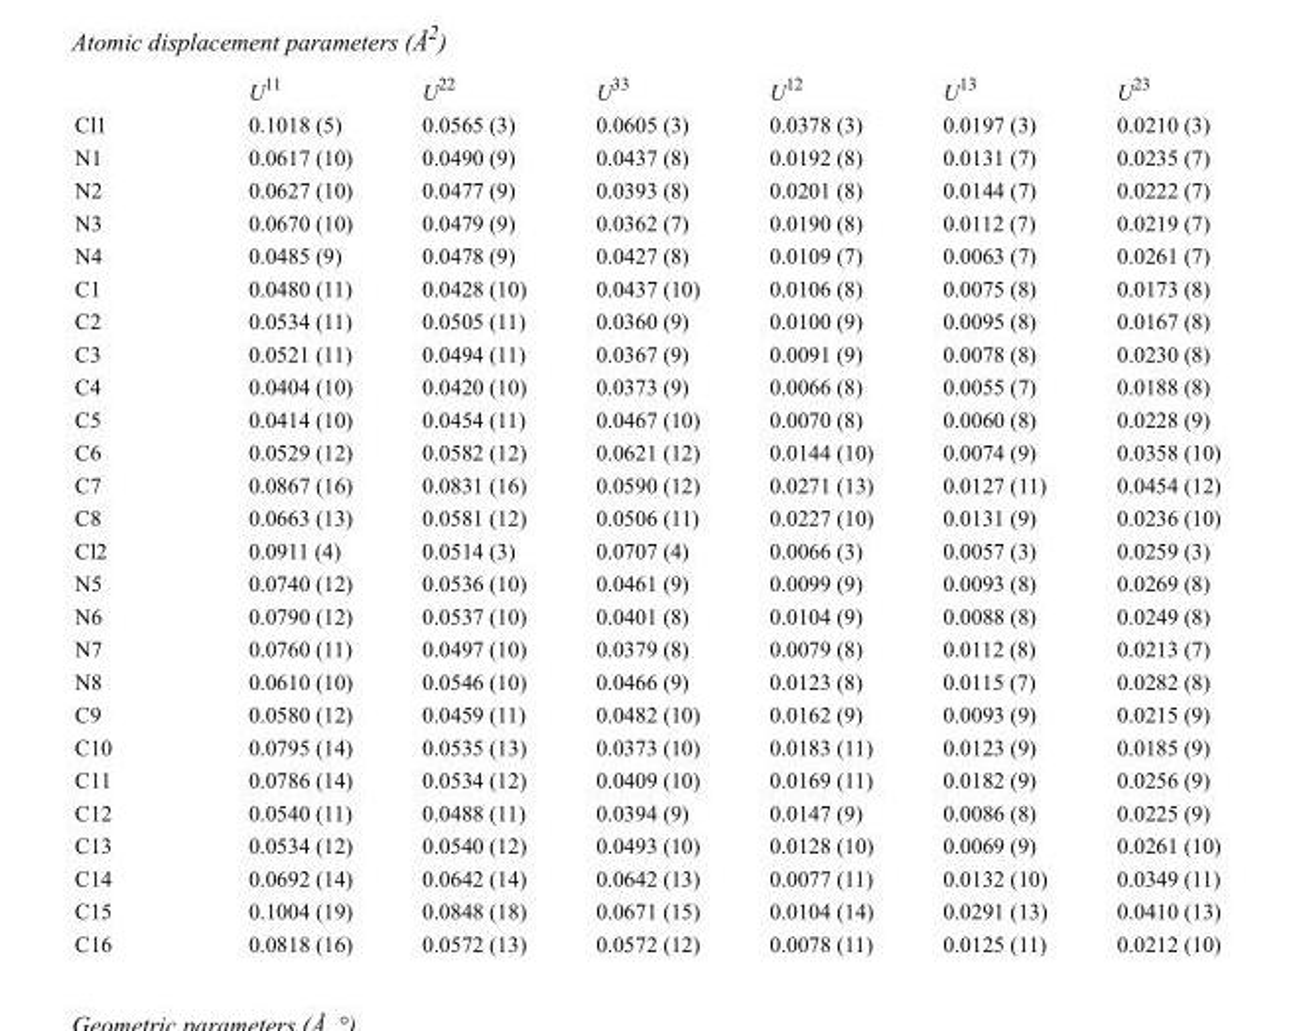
<table><thead><tr><td></td><td>U<sup>11</sup></td><td>U<sup>22</sup></td><td>U<sup>33</sup></td><td>U<sup>12</sup></td><td>U<sup>13</sup></td><td>U<sup>23</sup></td></tr></thead><tbody><tr><td>Cl1</td><td>0.1018 (5)</td><td>0.0565 (3)</td><td>0.0605 (3)</td><td>0.0378 (3)</td><td>0.0197 (3)</td><td>0.0210 (3)</td></tr><tr><td>N1</td><td>0.0617 (10)</td><td>0.0490 (9)</td><td>0.0437 (8)</td><td>0.0192 (8)</td><td>0.0131 (7)</td><td>0.0235 (7)</td></tr><tr><td>N2</td><td>0.0627 (10)</td><td>0.0477 (9)</td><td>0.0393 (8)</td><td>0.0201 (8)</td><td>0.0144 (7)</td><td>0.0222 (7)</td></tr><tr><td>N3</td><td>0.0670 (10)</td><td>0.0479 (9)</td><td>0.0362 (7)</td><td>0.0190 (8)</td><td>0.0112 (7)</td><td>0.0219 (7)</td></tr><tr><td>N4</td><td>0.0485 (9)</td><td>0.0478 (9)</td><td>0.0427 (8)</td><td>0.0109 (7)</td><td>0.0063 (7)</td><td>0.0261 (7)</td></tr><tr><td>C1</td><td>0.0480 (11)</td><td>0.0428 (10)</td><td>0.0437 (10)</td><td>0.0106 (8)</td><td>0.0075 (8)</td><td>0.0173 (8)</td></tr><tr><td>C2</td><td>0.0534 (11)</td><td>0.0505 (11)</td><td>0.0360 (9)</td><td>0.0100 (9)</td><td>0.0095 (8)</td><td>0.0167 (8)</td></tr><tr><td>C3</td><td>0.0521 (11)</td><td>0.0494 (11)</td><td>0.0367 (9)</td><td>0.0091 (9)</td><td>0.0078 (8)</td><td>0.0230 (8)</td></tr><tr><td>C4</td><td>0.0404 (10)</td><td>0.0420 (10)</td><td>0.0373 (9)</td><td>0.0066 (8)</td><td>0.0055 (7)</td><td>0.0188 (8)</td></tr><tr><td>C5</td><td>0.0414 (10)</td><td>0.0454 (11)</td><td>0.0467 (10)</td><td>0.0070 (8)</td><td>0.0060 (8)</td><td>0.0228 (9)</td></tr><tr><td>C6</td><td>0.0529 (12)</td><td>0.0582 (12)</td><td>0.0621 (12)</td><td>0.0144 (10)</td><td>0.0074 (9)</td><td>0.0358 (10)</td></tr><tr><td>C7</td><td>0.0867 (16)</td><td>0.0831 (16)</td><td>0.0590 (12)</td><td>0.0271 (13)</td><td>0.0127 (11)</td><td>0.0454 (12)</td></tr><tr><td>C8</td><td>0.0663 (13)</td><td>0.0581 (12)</td><td>0.0506 (11)</td><td>0.0227 (10)</td><td>0.0131 (9)</td><td>0.0236 (10)</td></tr><tr><td>Cl2</td><td>0.0911 (4)</td><td>0.0514 (3)</td><td>0.0707 (4)</td><td>0.0066 (3)</td><td>0.0057 (3)</td><td>0.0259 (3)</td></tr><tr><td>N5</td><td>0.0740 (12)</td><td>0.0536 (10)</td><td>0.0461 (9)</td><td>0.0099 (9)</td><td>0.0093 (8)</td><td>0.0269 (8)</td></tr><tr><td>N6</td><td>0.0790 (12)</td><td>0.0537 (10)</td><td>0.0401 (8)</td><td>0.0104 (9)</td><td>0.0088 (8)</td><td>0.0249 (8)</td></tr><tr><td>N7</td><td>0.0760 (11)</td><td>0.0497 (10)</td><td>0.0379 (8)</td><td>0.0079 (8)</td><td>0.0112 (8)</td><td>0.0213 (7)</td></tr><tr><td>N8</td><td>0.0610 (10)</td><td>0.0546 (10)</td><td>0.0466 (9)</td><td>0.0123 (8)</td><td>0.0115 (7)</td><td>0.0282 (8)</td></tr><tr><td>C9</td><td>0.0580 (12)</td><td>0.0459 (11)</td><td>0.0482 (10)</td><td>0.0162 (9)</td><td>0.0093 (9)</td><td>0.0215 (9)</td></tr><tr><td>C10</td><td>0.0795 (14)</td><td>0.0535 (13)</td><td>0.0373 (10)</td><td>0.0183 (11)</td><td>0.0123 (9)</td><td>0.0185 (9)</td></tr><tr><td>C11</td><td>0.0786 (14)</td><td>0.0534 (12)</td><td>0.0409 (10)</td><td>0.0169 (11)</td><td>0.0182 (9)</td><td>0.0256 (9)</td></tr><tr><td>C12</td><td>0.0540 (11)</td><td>0.0488 (11)</td><td>0.0394 (9)</td><td>0.0147 (9)</td><td>0.0086 (8)</td><td>0.0225 (9)</td></tr><tr><td>C13</td><td>0.0534 (12)</td><td>0.0540 (12)</td><td>0.0493 (10)</td><td>0.0128 (10)</td><td>0.0069 (9)</td><td>0.0261 (10)</td></tr><tr><td>C14</td><td>0.0692 (14)</td><td>0.0642 (14)</td><td>0.0642 (13)</td><td>0.0077 (11)</td><td>0.0132 (10)</td><td>0.0349 (11)</td></tr><tr><td>C15</td><td>0.1004 (19)</td><td>0.0848 (18)</td><td>0.0671 (15)</td><td>0.0104 (14)</td><td>0.0291 (13)</td><td>0.0410 (13)</td></tr><tr><td>C16</td><td>0.0818 (16)</td><td>0.0572 (13)</td><td>0.0572 (12)</td><td>0.0078 (11)</td><td>0.0125 (11)</td><td>0.0212 (10)</td></tr></tbody></table>